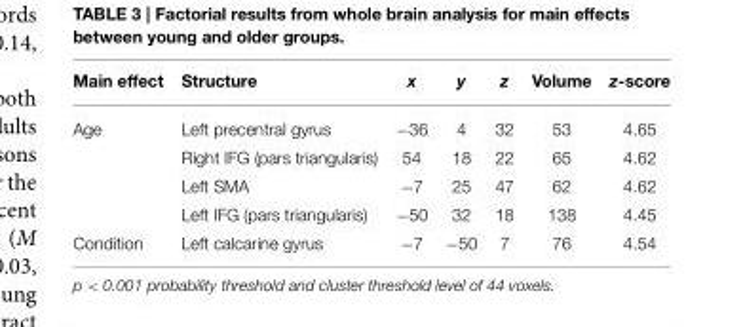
<table><thead><tr><td>Main effect</td><td>Structure</td><td>x</td><td>y</td><td>z</td><td>Volume</td><td>z-score</td></tr></thead><tbody><tr><td rowspan="4">Age</td><td>Left precentral gyrus</td><td>−36</td><td>4</td><td>32</td><td>53</td><td>4.65</td></tr><tr><td>Right IFG (pars triangularis)</td><td>54</td><td>18</td><td>22</td><td>65</td><td>4.62</td></tr><tr><td>Left SMA</td><td>−7</td><td>25</td><td>47</td><td>62</td><td>4.62</td></tr><tr><td>Left IFG (pars triangularis)</td><td>−50</td><td>32</td><td>18</td><td>138</td><td>4.45</td></tr><tr><td>Condition</td><td>Left calcarine gyrus</td><td>−7</td><td>−50</td><td>7</td><td>76</td><td>4.54</td></tr></tbody></table>